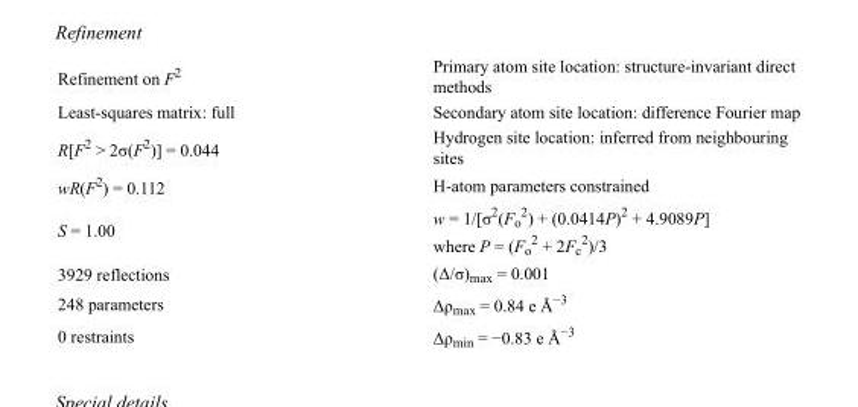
<table><tbody><tr><td>Refinement on F<sup>2</sup></td><td>Primary atom site location: structure-invariant direct methods</td></tr><tr><td>Least-squares matrix: full</td><td>Secondary atom site location: difference Fourier map</td></tr><tr><td>R[F<sup>2</sup> &gt; 2σ(F<sup>2</sup>)] = 0.044</td><td>Hydrogen site location: inferred from neighbouring sites</td></tr><tr><td>wR(F<sup>2</sup>) = 0.112</td><td>H-atom parameters constrained</td></tr><tr><td>S = 1.00</td><td>w = 1/[σ<sup>2</sup>(F<sub>o</sub> <sup>2</sup>) + (0.0414P)<sup>2</sup> + 4.9089P] where P = (F<sub>o</sub> <sup>2</sup> + 2F<sub>c</sub> <sup>2</sup>)/3</td></tr><tr><td>3929 reflections</td><td>(Δ/σ)<sub>max</sub> = 0.001</td></tr><tr><td>248 parameters</td><td>Δρ<sub>max</sub> = 0.84 e Å<sup>−3</sup></td></tr><tr><td>0 restraints</td><td>Δρ<sub>min</sub> = −0.83 e Å<sup>−3</sup></td></tr></tbody></table>